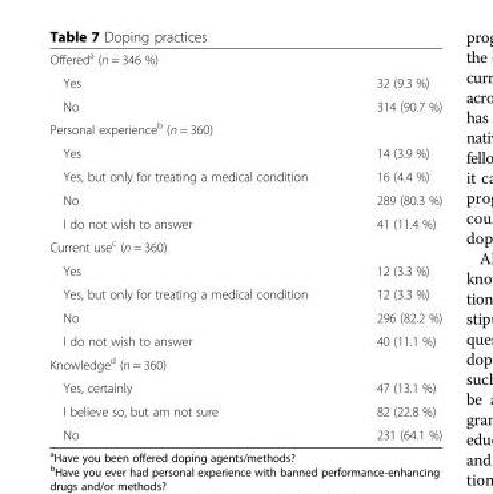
<table><tbody><tr><td colspan="2">Offered<sup>a</sup> (n = 346 %)</td></tr><tr><td>Yes</td><td>32 (9.3 %)</td></tr><tr><td>No</td><td>314 (90.7 %)</td></tr><tr><td colspan="2">Personal experience<sup>b</sup> (n = 360)</td></tr><tr><td>Yes</td><td>14 (3.9 %)</td></tr><tr><td>Yes, but only for treating a medical condition</td><td>16 (4.4 %)</td></tr><tr><td>No</td><td>289 (80.3 %)</td></tr><tr><td>I do not wish to answer</td><td>41 (11.4 %)</td></tr><tr><td colspan="2">Current use<sup>c</sup> (n = 360)</td></tr><tr><td>Yes</td><td>12 (3.3 %)</td></tr><tr><td>Yes, but only for treating a medical condition</td><td>12 (3.3 %)</td></tr><tr><td>No</td><td>296 (82.2 %)</td></tr><tr><td>I do not wish to answer</td><td>40 (11.1 %)</td></tr><tr><td colspan="2">Knowledge<sup>d</sup> (n = 360)</td></tr><tr><td>Yes, certainly</td><td>47 (13.1 %)</td></tr><tr><td>I believe so, but am not sure</td><td>82 (22.8 %)</td></tr><tr><td>No</td><td>231 (64.1 %)</td></tr></tbody></table>